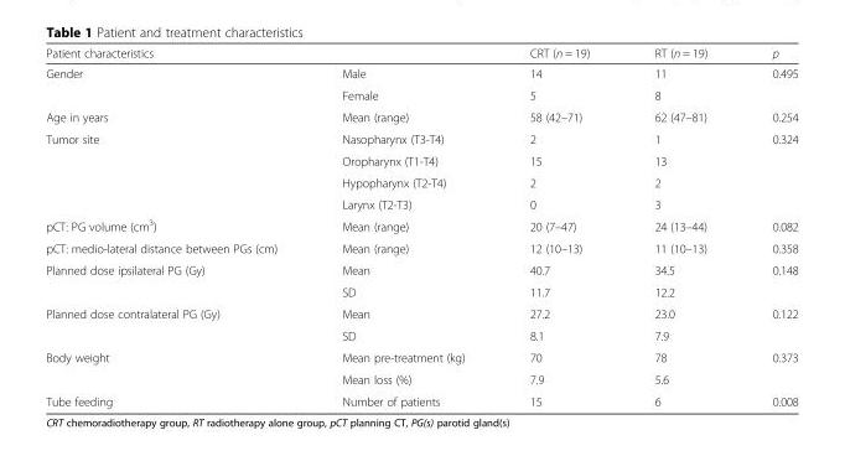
<table><thead><tr><td>Patient characteristics</td><td></td><td>CRT (n = 19)</td><td>RT (n = 19)</td><td>p</td></tr></thead><tbody><tr><td rowspan="2">Gender</td><td>Male</td><td>14</td><td>11</td><td>0.495</td></tr><tr><td>Female</td><td>5</td><td>8</td><td></td></tr><tr><td>Age in years</td><td>Mean (range)</td><td>58 (42–71)</td><td>62 (47–81)</td><td>0.254</td></tr><tr><td rowspan="4">Tumor site</td><td>Nasopharynx (T3-T4)</td><td>2</td><td>1</td><td>0.324</td></tr><tr><td>Oropharynx (T1-T4)</td><td>15</td><td>13</td><td></td></tr><tr><td>Hypopharynx (T2-T4)</td><td>2</td><td>2</td><td></td></tr><tr><td>Larynx (T2-T3)</td><td>0</td><td>3</td><td></td></tr><tr><td>pCT: PG volume (cm<sup>3</sup>)</td><td>Mean (range)</td><td>20 (7–47)</td><td>24 (13–44)</td><td>0.082</td></tr><tr><td>pCT: medio-lateral distance between PGs (cm)</td><td>Mean (range)</td><td>12 (10–13)</td><td>11 (10–13)</td><td>0.358</td></tr><tr><td rowspan="2">Planned dose ipsilateral PG (Gy)</td><td>Mean</td><td>40.7</td><td>34.5</td><td>0.148</td></tr><tr><td>SD</td><td>11.7</td><td>12.2</td><td></td></tr><tr><td rowspan="2">Planned dose contralateral PG (Gy)</td><td>Mean</td><td>27.2</td><td>23.0</td><td>0.122</td></tr><tr><td>SD</td><td>8.1</td><td>7.9</td><td></td></tr><tr><td rowspan="2">Body weight</td><td>Mean pre-treatment (kg)</td><td>70</td><td>78</td><td>0.373</td></tr><tr><td>Mean loss (%)</td><td>7.9</td><td>5.6</td><td></td></tr><tr><td>Tube feeding</td><td>Number of patients</td><td>15</td><td>6</td><td>0.008</td></tr></tbody></table>